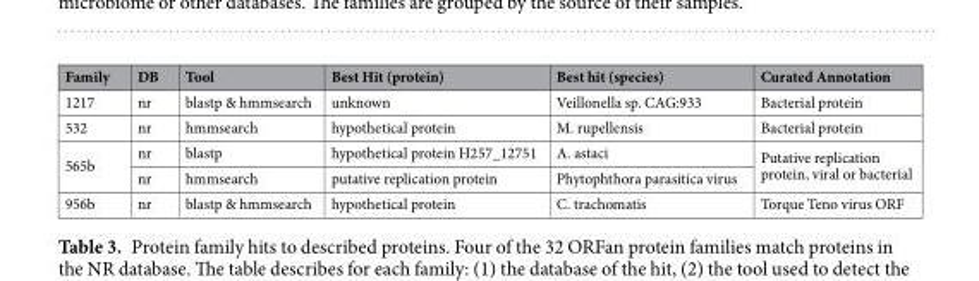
<table><thead><tr><td>Family</td><td>DB</td><td>Tool</td><td>Best Hit (protein)</td><td>Best hit (species)</td><td>Curated Annotation</td></tr></thead><tbody><tr><td>1217</td><td>nr</td><td>blastp &amp; hmmsearch</td><td>unknown</td><td>Veillonella sp. CAG:933</td><td>Bacterial protein</td></tr><tr><td>532</td><td>nr</td><td>hmmsearch</td><td>hypothetical protein</td><td>M. rupellensis</td><td>Bacterial protein</td></tr><tr><td rowspan="2">565b</td><td>nr</td><td>blastp</td><td>hypothetical protein H257_12751</td><td>A. astaci</td><td rowspan="2">Putative replication protein, viral or bacterial</td></tr><tr><td>nr</td><td>hmmsearch</td><td>putative replication protein</td><td>Phytophthora parasitica virus</td></tr><tr><td>956b</td><td>nr</td><td>blastp &amp; hmmsearch</td><td>hypothetical protein</td><td>C. trachomatis</td><td>Torque Teno virus ORF</td></tr></tbody></table>